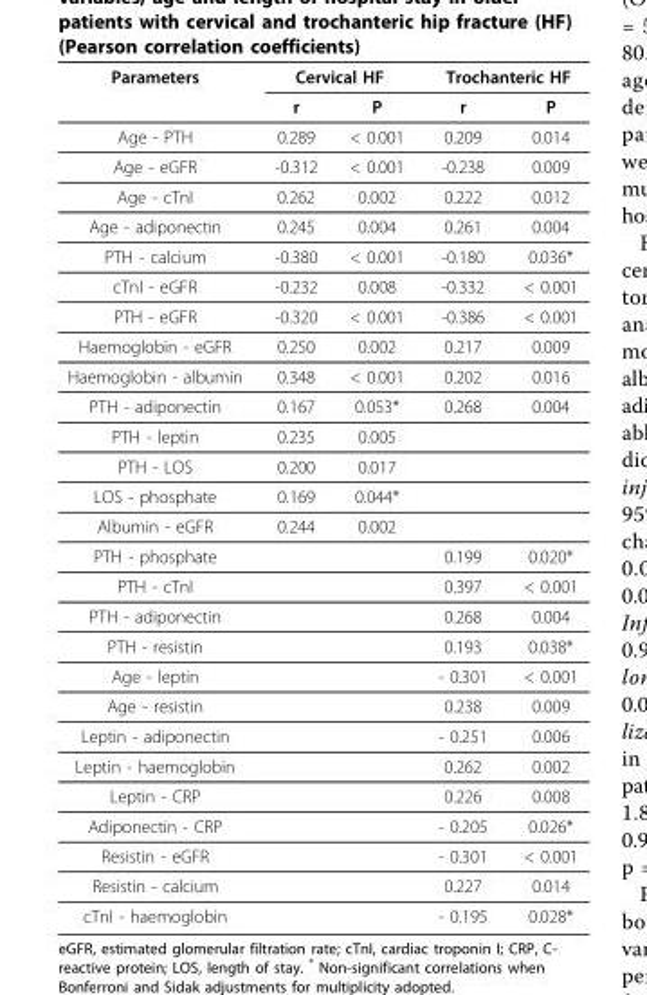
<table><thead><tr><td rowspan="2">Parameters</td><td colspan="2">Cervical HF</td><td colspan="2">Trochanteric HF</td></tr><tr><td>r</td><td>P</td><td>r</td><td>P</td></tr></thead><tbody><tr><td>Age - PTH</td><td>0.289</td><td>&lt; 0.001</td><td>0.209</td><td>0.014</td></tr><tr><td>Age - eGFR</td><td>-0.312</td><td>&lt; 0.001</td><td>-0.238</td><td>0.009</td></tr><tr><td>Age - cTnI</td><td>0.262</td><td>0.002</td><td>0.222</td><td>0.012</td></tr><tr><td>Age - adiponectin</td><td>0.245</td><td>0.004</td><td>0.261</td><td>0.004</td></tr><tr><td>PTH - calcium</td><td>-0.380</td><td>&lt; 0.001</td><td>-0.180</td><td>0.036*</td></tr><tr><td>cTnI - eGFR</td><td>-0.232</td><td>0.008</td><td>-0.332</td><td>&lt; 0.001</td></tr><tr><td>PTH - eGFR</td><td>-0.320</td><td>&lt; 0.001</td><td>-0.386</td><td>&lt; 0.001</td></tr><tr><td>Haemoglobin - eGFR</td><td>0.250</td><td>0.002</td><td>0.217</td><td>0.009</td></tr><tr><td>Haemoglobin - albumin</td><td>0.348</td><td>&lt; 0.001</td><td>0.202</td><td>0.016</td></tr><tr><td>PTH - adiponectin</td><td>0.167</td><td>0.053*</td><td>0.268</td><td>0.004</td></tr><tr><td>PTH - leptin</td><td>0.235</td><td>0.005</td><td></td><td></td></tr><tr><td>PTH - LOS</td><td>0.200</td><td>0.017</td><td></td><td></td></tr><tr><td>LOS - phosphate</td><td>0.169</td><td>0.044*</td><td></td><td></td></tr><tr><td>Albumin - eGFR</td><td>0.244</td><td>0.002</td><td></td><td></td></tr><tr><td>PTH - phosphate</td><td></td><td></td><td>0.199</td><td>0.020*</td></tr><tr><td>PTH - cTnI</td><td></td><td></td><td>0.397</td><td>&lt; 0.001</td></tr><tr><td>PTH - adiponectin</td><td></td><td></td><td>0.268</td><td>0.004</td></tr><tr><td>PTH - resistin</td><td></td><td></td><td>0.193</td><td>0.038*</td></tr><tr><td>Age - leptin</td><td></td><td></td><td>- 0.301</td><td>&lt; 0.001</td></tr><tr><td>Age - resistin</td><td></td><td></td><td>0.238</td><td>0.009</td></tr><tr><td>Leptin - adiponectin</td><td></td><td></td><td>- 0.251</td><td>0.006</td></tr><tr><td>Leptin - haemoglobin</td><td></td><td></td><td>0.262</td><td>0.002</td></tr><tr><td>Leptin - CRP</td><td></td><td></td><td>0.226</td><td>0.008</td></tr><tr><td>Adiponectin - CRP</td><td></td><td></td><td>- 0.205</td><td>0.026*</td></tr><tr><td>Resistin - eGFR</td><td></td><td></td><td>- 0.301</td><td>&lt; 0.001</td></tr><tr><td>Resistin - calcium</td><td></td><td></td><td>0.227</td><td>0.014</td></tr><tr><td>cTnI - haemoglobin</td><td></td><td></td><td>- 0.195</td><td>0.028*</td></tr></tbody></table>